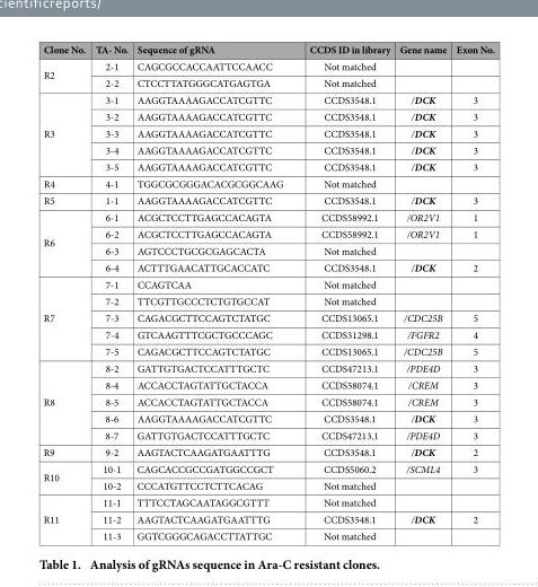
<table><thead><tr><td>Clone No.</td><td>TA- No.</td><td>Sequence of gRNA</td><td>CCDS ID in library</td><td>Gene name</td><td>Exon No.</td></tr></thead><tbody><tr><td rowspan="2">R2</td><td>2-1</td><td>CAGCGCCACCAATTCCAACC</td><td>Not matched</td><td></td><td></td></tr><tr><td>2-2</td><td>CTCCTTATGGGCATGAGTGA</td><td>Not matched</td><td></td><td></td></tr><tr><td rowspan="5">R3</td><td>3-1</td><td>AAGGTAAAAGACCATCGTTC</td><td>CCDS3548.1</td><td>/DCK</td><td>3</td></tr><tr><td>3-2</td><td>AAGGTAAAAGACCATCGTTC</td><td>CCDS3548.1</td><td>/DCK</td><td>3</td></tr><tr><td>3-3</td><td>AAGGTAAAAGACCATCGTTC</td><td>CCDS3548.1</td><td>/DCK</td><td>3</td></tr><tr><td>3-4</td><td>AAGGTAAAAGACCATCGTTC</td><td>CCDS3548.1</td><td>/DCK</td><td>3</td></tr><tr><td>3-5</td><td>AAGGTAAAAGACCATCGTTC</td><td>CCDS3548.1</td><td>/DCK</td><td>3</td></tr><tr><td>R4</td><td>4-1</td><td>TGGCGCGGGACACGCGGCAAG</td><td>Not matched</td><td></td><td></td></tr><tr><td>R5</td><td>1-1</td><td>AAGGTAAAAGACCATCGTTC</td><td>CCDS3548.1</td><td>/DCK</td><td>3</td></tr><tr><td rowspan="4">R6</td><td>6-1</td><td>ACGCTCCTTGAGCCACAGTA</td><td>CCDS58992.1</td><td>/OR2V1</td><td>1</td></tr><tr><td>6-2</td><td>ACGCTCCTTGAGCCACAGTA</td><td>CCDS58992.1</td><td>/OR2V1</td><td>1</td></tr><tr><td>6-3</td><td>AGTCCCTGCGCGAGCACTA</td><td>Not matched</td><td></td><td></td></tr><tr><td>6-4</td><td>ACTTTGAACATTGCACCATC</td><td>CCDS3548.1</td><td>/DCK</td><td>2</td></tr><tr><td rowspan="5">R7</td><td>7-1</td><td>CCAGTCAA</td><td>Not matched</td><td></td><td></td></tr><tr><td>7-2</td><td>TTCGTTGCCCTCTGTGCCAT</td><td>Not matched</td><td></td><td></td></tr><tr><td>7-3</td><td>CAGACGCTTCCAGTCTATGC</td><td>CCDS13065.1</td><td>/CDC25B</td><td>5</td></tr><tr><td>7-4</td><td>GTCAAGTTTCGCTGCCCAGC</td><td>CCDS31298.1</td><td>/FGFR2</td><td>4</td></tr><tr><td>7-5</td><td>CAGACGCTTCCAGTCTATGC</td><td>CCDS13065.1</td><td>/CDC25B</td><td>5</td></tr><tr><td rowspan="5">R8</td><td>8-2</td><td>GATTGTGACTCCATTTGCTC</td><td>CCDS47213.1</td><td>/PDE4D</td><td>3</td></tr><tr><td>8-4</td><td>ACCACCTAGTATTGCTACCA</td><td>CCDS58074.1</td><td>/CREM</td><td>3</td></tr><tr><td>8-5</td><td>ACCACCTAGTATTGCTACCA</td><td>CCDS58074.1</td><td>/CREM</td><td>3</td></tr><tr><td>8-6</td><td>AAGGTAAAAGACCATCGTTC</td><td>CCDS3548.1</td><td>/DCK</td><td>3</td></tr><tr><td>8-7</td><td>GATTGTGACTCCATTTGCTC</td><td>CCDS47213.1</td><td>/PDE4D</td><td>3</td></tr><tr><td>R9</td><td>9-2</td><td>AAGTACTCAAGATGAATTTG</td><td>CCDS3548.1</td><td>/DCK</td><td>2</td></tr><tr><td rowspan="2">R10</td><td>10-1</td><td>CAGCACCGCCGATGGCCGCT</td><td>CCDS5060.2</td><td>/SCML4</td><td>3</td></tr><tr><td>10-2</td><td>CCCATGTTCCTCTTCACAG</td><td>Not matched</td><td></td><td></td></tr><tr><td rowspan="3">R11</td><td>11-1</td><td>TTTCCTAGCAATAGGCGTTT</td><td>Not matched</td><td></td><td></td></tr><tr><td>11-2</td><td>AAGTACTCAAGATGAATTTG</td><td>CCDS3548.1</td><td>/DCK</td><td>2</td></tr><tr><td>11-3</td><td>GGTCGGGCAGACCTTATTGC</td><td>Not matched</td><td></td><td></td></tr></tbody></table>